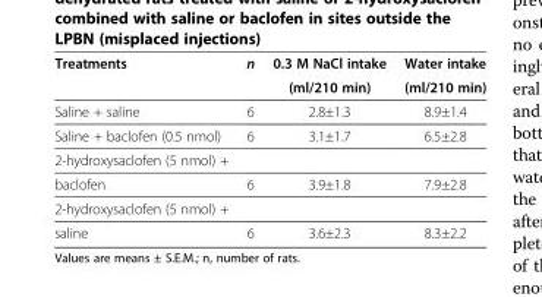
<table><thead><tr><td rowspan="2">Treatments</td><td rowspan="2">n</td><td rowspan="2">0.3 M NaCl intake (ml/210 min)</td><td rowspan="2">Water intake (ml/210 min)</td></tr><tr></tr></thead><tbody><tr><td>Saline + saline</td><td>6</td><td>2.8±1.3</td><td>8.9±1.4</td></tr><tr><td>Saline + baclofen (0.5 nmol)</td><td>6</td><td>3.1±1.7</td><td>6.5±2.8</td></tr><tr><td colspan="4">2-hydroxysaclofen (5 nmol) +</td></tr><tr><td>baclofen</td><td>6</td><td>3.9±1.8</td><td>7.9±2.8</td></tr><tr><td colspan="4">2-hydroxysaclofen (5 nmol) +</td></tr><tr><td>saline</td><td>6</td><td>3.6±2.3</td><td>8.3±2.2</td></tr></tbody></table>